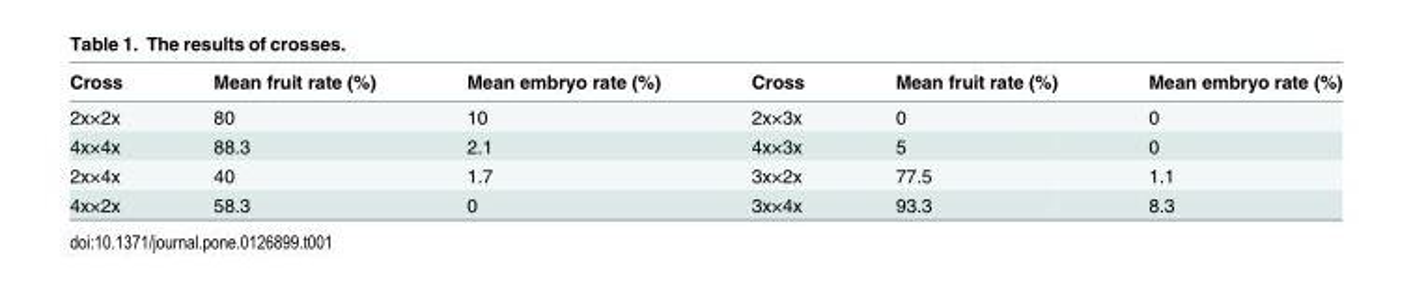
<table><thead><tr><td>Cross</td><td>Mean fruit rate (%)</td><td>Mean embryo rate (%)</td><td>Cross</td><td>Mean fruit rate (%)</td><td>Mean embryo rate (%)</td></tr></thead><tbody><tr><td>2x×2x</td><td>80</td><td>10</td><td>2x×3x</td><td>0</td><td>0</td></tr><tr><td>4x×4x</td><td>88.3</td><td>2.1</td><td>4x×3x</td><td>5</td><td>0</td></tr><tr><td>2x×4x</td><td>40</td><td>1.7</td><td>3x×2x</td><td>77.5</td><td>1.1</td></tr><tr><td>4x×2x</td><td>58.3</td><td>0</td><td>3x×4x</td><td>93.3</td><td>8.3</td></tr></tbody></table>